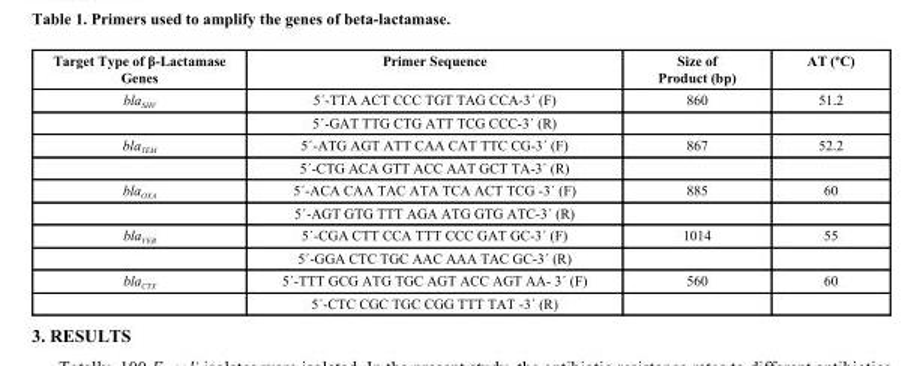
<table><thead><tr><td>Target Type of β-Lactamase Genes</td><td>Primer Sequence</td><td>Size of Product (bp)</td><td>AT (ºC)</td></tr></thead><tbody><tr><td rowspan="2">bla<sub>SHV</sub></td><td>5´-TTA ACT CCC TGT TAG CCA-3´ (F)</td><td>860</td><td>51.2</td></tr><tr><td>5´-GAT TTG CTG ATT TCG CCC-3´ (R)</td><td></td><td></td></tr><tr><td rowspan="2">bla<sub>TEM</sub></td><td>5´-ATG AGT ATT CAA CAT TTC CG-3´ (F)</td><td>867</td><td>52.2</td></tr><tr><td>5´-CTG ACA GTT ACC AAT GCT TA-3´ (R)</td><td></td><td></td></tr><tr><td rowspan="2">bla<sub>OXA</sub></td><td>5´-ACA CAA TAC ATA TCA ACT TCG -3´ (F)</td><td>885</td><td>60</td></tr><tr><td>5´-AGT GTG TTT AGA ATG GTG ATC-3´ (R)</td><td></td><td></td></tr><tr><td rowspan="2">bla<sub>VEB</sub></td><td>5´-CGA CTT CCA TTT CCC GAT GC-3´ (F)</td><td>1014</td><td>55</td></tr><tr><td>5´-GGA CTC TGC AAC AAA TAC GC-3´ (R)</td><td></td><td></td></tr><tr><td rowspan="2">bla<sub>CTX</sub></td><td>5´-TTT GCG ATG TGC AGT ACC AGT AA- 3´ (F)</td><td>560</td><td>60</td></tr><tr><td>5´-CTC CGC TGC CGG TTT TAT -3´ (R)</td><td></td><td></td></tr></tbody></table>